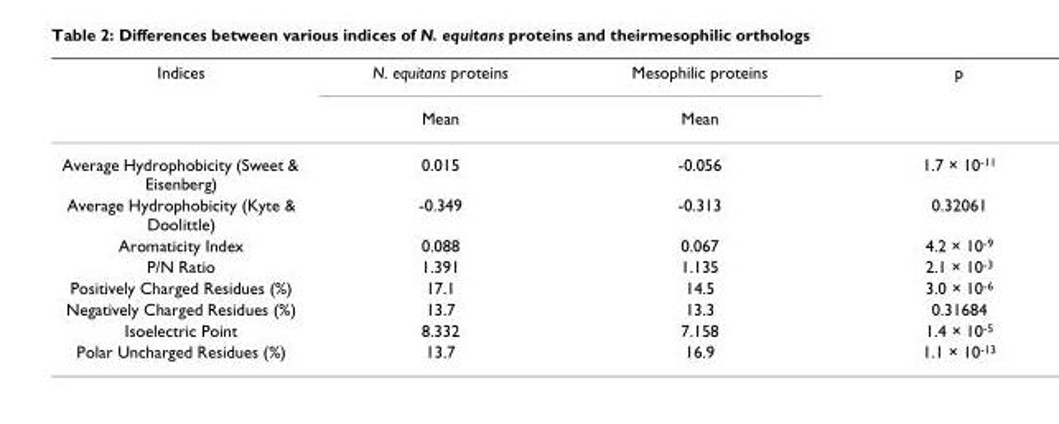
<table><thead><tr><td rowspan="2">Indices</td><td rowspan="2">N. equitans proteins Mean</td><td rowspan="2">Mesophilic proteins Mean</td><td rowspan="2">p</td></tr><tr></tr></thead><tbody><tr><td>Average Hydrophobicity (Sweet &amp; Eisenberg)</td><td>0.015</td><td>-0.056</td><td>1.7 × 10-11</td></tr><tr><td>Average Hydrophobicity (Kyte &amp; Doolittle)</td><td>-0.349</td><td>-0.313</td><td>0.32061</td></tr><tr><td>Aromaticity Index</td><td>0.088</td><td>0.067</td><td>4.2 × 10-9</td></tr><tr><td>P/N Ratio</td><td>1.391</td><td>1.135</td><td>2.1 × 10-3</td></tr><tr><td>Positively Charged Residues (%)</td><td>17.1</td><td>14.5</td><td>3.0 × 10-6</td></tr><tr><td>Negatively Charged Residues (%)</td><td>13.7</td><td>13.3</td><td>0.31684</td></tr><tr><td>Isoelectric Point</td><td>8.332</td><td>7.158</td><td>1.4 × 10-5</td></tr><tr><td>Polar Uncharged Residues (%)</td><td>13.7</td><td>16.9</td><td>1.1 × 10-13</td></tr></tbody></table>